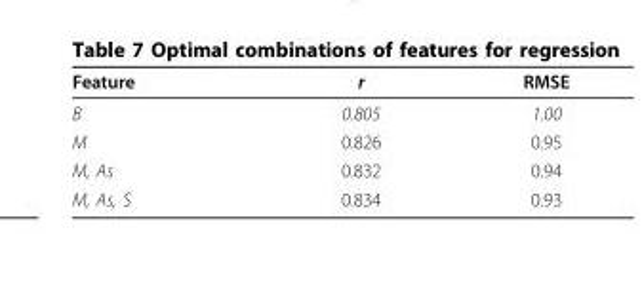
<table><thead><tr><td>Feature</td><td>r</td><td>RMSE</td></tr></thead><tbody><tr><td>B</td><td>0.805</td><td>1.00</td></tr><tr><td>M</td><td>0.826</td><td>0.95</td></tr><tr><td>M, As</td><td>0.832</td><td>0.94</td></tr><tr><td>M, As, S</td><td>0.834</td><td>0.93</td></tr></tbody></table>